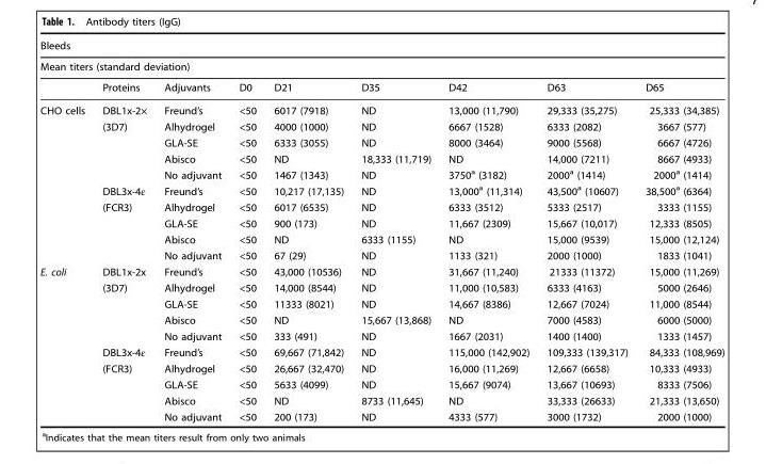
<table><thead><tr><td rowspan="2" colspan="9">Bleeds Mean titers (standard deviation)</td></tr><tr></tr><tr><td></td><td>Proteins</td><td>Adjuvants</td><td>D0</td><td>D21</td><td>D35</td><td>D42</td><td>D63</td><td>D65</td></tr></thead><tbody><tr><td rowspan="10">CHO cells</td><td>DBL1x-2×</td><td>Freund’s</td><td>&lt;50</td><td>6017 (7918)</td><td>ND</td><td>13,000 (11,790)</td><td>29,333 (35,275)</td><td>25,333 (34,385)</td></tr><tr><td>(3D7)</td><td>Alhydrogel</td><td>&lt;50</td><td>4000 (1000)</td><td>ND</td><td>6667 (1528)</td><td>6333 (2082)</td><td>3667 (577)</td></tr><tr><td></td><td>GLA-SE</td><td>&lt;50</td><td>6333 (3055)</td><td>ND</td><td>8000 (3464)</td><td>9000 (5568)</td><td>6667 (4726)</td></tr><tr><td></td><td>Abisco</td><td>&lt;50</td><td>ND</td><td>18,333 (11,719)</td><td>ND</td><td>14,000 (7211)</td><td>8667 (4933)</td></tr><tr><td></td><td>No adjuvant</td><td>&lt;50</td><td>1467 (1343)</td><td>ND</td><td>3750<sup>a</sup> (3182)</td><td>2000<sup>a</sup> (1414)</td><td>2000<sup>a</sup> (1414)</td></tr><tr><td>DBL3x-4ε</td><td>Freund’s</td><td>&lt;50</td><td>10,217 (17,135)</td><td>ND</td><td>13,000<sup>a</sup> (11,314)</td><td>43,500<sup>a</sup> (10607)</td><td>38,500<sup>a</sup> (6364)</td></tr><tr><td>(FCR3)</td><td>Alhydrogel</td><td>&lt;50</td><td>6017 (6535)</td><td>ND</td><td>6333 (3512)</td><td>5333 (2517)</td><td>3333 (1155)</td></tr><tr><td></td><td>GLA-SE</td><td>&lt;50</td><td>900 (173)</td><td>ND</td><td>11,667 (2309)</td><td>15,667 (10,017)</td><td>12,333 (8505)</td></tr><tr><td></td><td>Abisco</td><td>&lt;50</td><td>ND</td><td>6333 (1155)</td><td>ND</td><td>15,000 (9539)</td><td>15,000 (12,124)</td></tr><tr><td></td><td>No adjuvant</td><td>&lt;50</td><td>67 (29)</td><td>ND</td><td>1133 (321)</td><td>2000 (1000)</td><td>1833 (1041)</td></tr><tr><td rowspan="10">E. coli</td><td>DBL1x-2x</td><td>Freund’s</td><td>&lt;50</td><td>43,000 (10536)</td><td>ND</td><td>31,667 (11,240)</td><td>21333 (11372)</td><td>15,000 (11,269)</td></tr><tr><td>(3D7)</td><td>Alhydrogel</td><td>&lt;50</td><td>14,000 (8544)</td><td>ND</td><td>11,000 (10,583)</td><td>6333 (4163)</td><td>5000 (2646)</td></tr><tr><td></td><td>GLA-SE</td><td>&lt;50</td><td>11333 (8021)</td><td>ND</td><td>14,667 (8386)</td><td>12,667 (7024)</td><td>11,000 (8544)</td></tr><tr><td></td><td>Abisco</td><td>&lt;50</td><td>ND</td><td>15,667 (13,868)</td><td>ND</td><td>7000 (4583)</td><td>6000 (5000)</td></tr><tr><td></td><td>No adjuvant</td><td>&lt;50</td><td>333 (491)</td><td>ND</td><td>1667 (2031)</td><td>1400 (1400)</td><td>1333 (1457)</td></tr><tr><td>DBL3x-4ε</td><td>Freund’s</td><td>&lt;50</td><td>69,667 (71,842)</td><td>ND</td><td>115,000 (142,902)</td><td>109,333 (139,317)</td><td>84,333 (108,969)</td></tr><tr><td>(FCR3)</td><td>Alhydrogel</td><td>&lt;50</td><td>26,667 (32,470)</td><td>ND</td><td>16,000 (11,269)</td><td>12,667 (6658)</td><td>10,333 (4933)</td></tr><tr><td></td><td>GLA-SE</td><td>&lt;50</td><td>5633 (4099)</td><td>ND</td><td>15,667 (9074)</td><td>13,667 (10693)</td><td>8333 (7506)</td></tr><tr><td></td><td>Abisco</td><td>&lt;50</td><td>ND</td><td>8733 (11,645)</td><td>ND</td><td>33,333 (26633)</td><td>21,333 (13,650)</td></tr><tr><td></td><td>No adjuvant</td><td>&lt;50</td><td>200 (173)</td><td>ND</td><td>4333 (577)</td><td>3000 (1732)</td><td>2000 (1000)</td></tr></tbody></table>